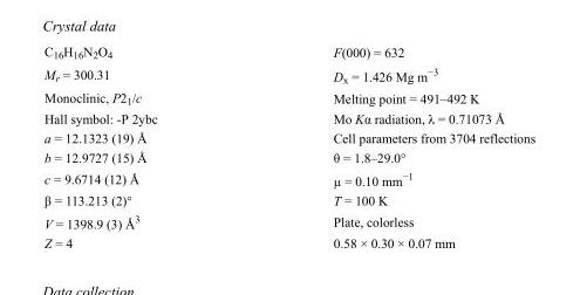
<table><tbody><tr><td>C<sub>16</sub>H<sub>16</sub>N<sub>2</sub>O<sub>4</sub></td><td>F(000) = 632</td></tr><tr><td>M<sub>r</sub> = 300.31</td><td>D<sub>x</sub> = 1.426 Mg m<sup>−3</sup></td></tr><tr><td>Monoclinic, P2<sub>1</sub>/c</td><td>Melting point = 491–492 K</td></tr><tr><td>Hall symbol: -P 2ybc</td><td>Mo Kα radiation, λ = 0.71073 Å</td></tr><tr><td>a = 12.1323 (19) Å</td><td>Cell parameters from 3704 reflections</td></tr><tr><td>b = 12.9727 (15) Å</td><td>θ = 1.8–29.0°</td></tr><tr><td>c = 9.6714 (12) Å</td><td>µ = 0.10 mm<sup>−1</sup></td></tr><tr><td>β = 113.213 (2)°</td><td>T = 100 K</td></tr><tr><td>V = 1398.9 (3) Å<sup>3</sup></td><td>Plate, colorless</td></tr><tr><td>Z = 4</td><td>0.58 × 0.30 × 0.07 mm</td></tr></tbody></table>